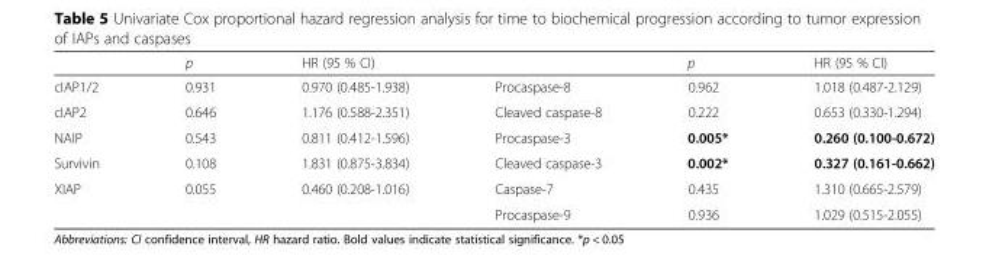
<table><thead><tr><td></td><td>p</td><td>HR (95 % CI)</td><td></td><td>p</td><td>HR (95 % CI)</td></tr></thead><tbody><tr><td>cIAP1/2</td><td>0.931</td><td>0.970 (0.485-1.938)</td><td>Procaspase-8</td><td>0.962</td><td>1.018 (0.487-2.129)</td></tr><tr><td>cIAP2</td><td>0.646</td><td>1.176 (0.588-2.351)</td><td>Cleaved caspase-8</td><td>0.222</td><td>0.653 (0.330-1.294)</td></tr><tr><td>NAIP</td><td>0.543</td><td>0.811 (0.412-1.596)</td><td>Procaspase-3</td><td>0.005*</td><td>0.260 (0.100-0.672)</td></tr><tr><td>Survivin</td><td>0.108</td><td>1.831 (0.875-3.834)</td><td>Cleaved caspase-3</td><td>0.002*</td><td>0.327 (0.161-0.662)</td></tr><tr><td rowspan="2">XIAP</td><td>0.055</td><td>0.460 (0.208-1.016)</td><td>Caspase-7</td><td>0.435</td><td>1.310 (0.665-2.579)</td></tr><tr><td></td><td></td><td>Procaspase-9</td><td>0.936</td><td>1.029 (0.515-2.055)</td></tr></tbody></table>